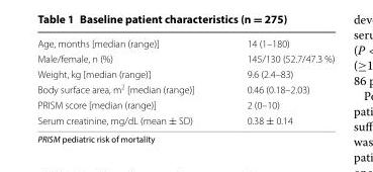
<table><tbody><tr><td>Age, months [median (range)]</td><td>14 (1–180)</td></tr><tr><td>Male/female, n (%)</td><td>145/130 (52.7/47.3 %)</td></tr><tr><td>Weight, kg [median (range)]</td><td>9.6 (2.4–83)</td></tr><tr><td>Body surface area, m<sup>2</sup> [median (range)]</td><td>0.46 (0.18–2.03)</td></tr><tr><td>PRISM score [median (range)]</td><td>2 (0–10)</td></tr><tr><td>Serum creatinine, mg/dL (mean ± SD)</td><td>0.38 ± 0.14</td></tr></tbody></table>